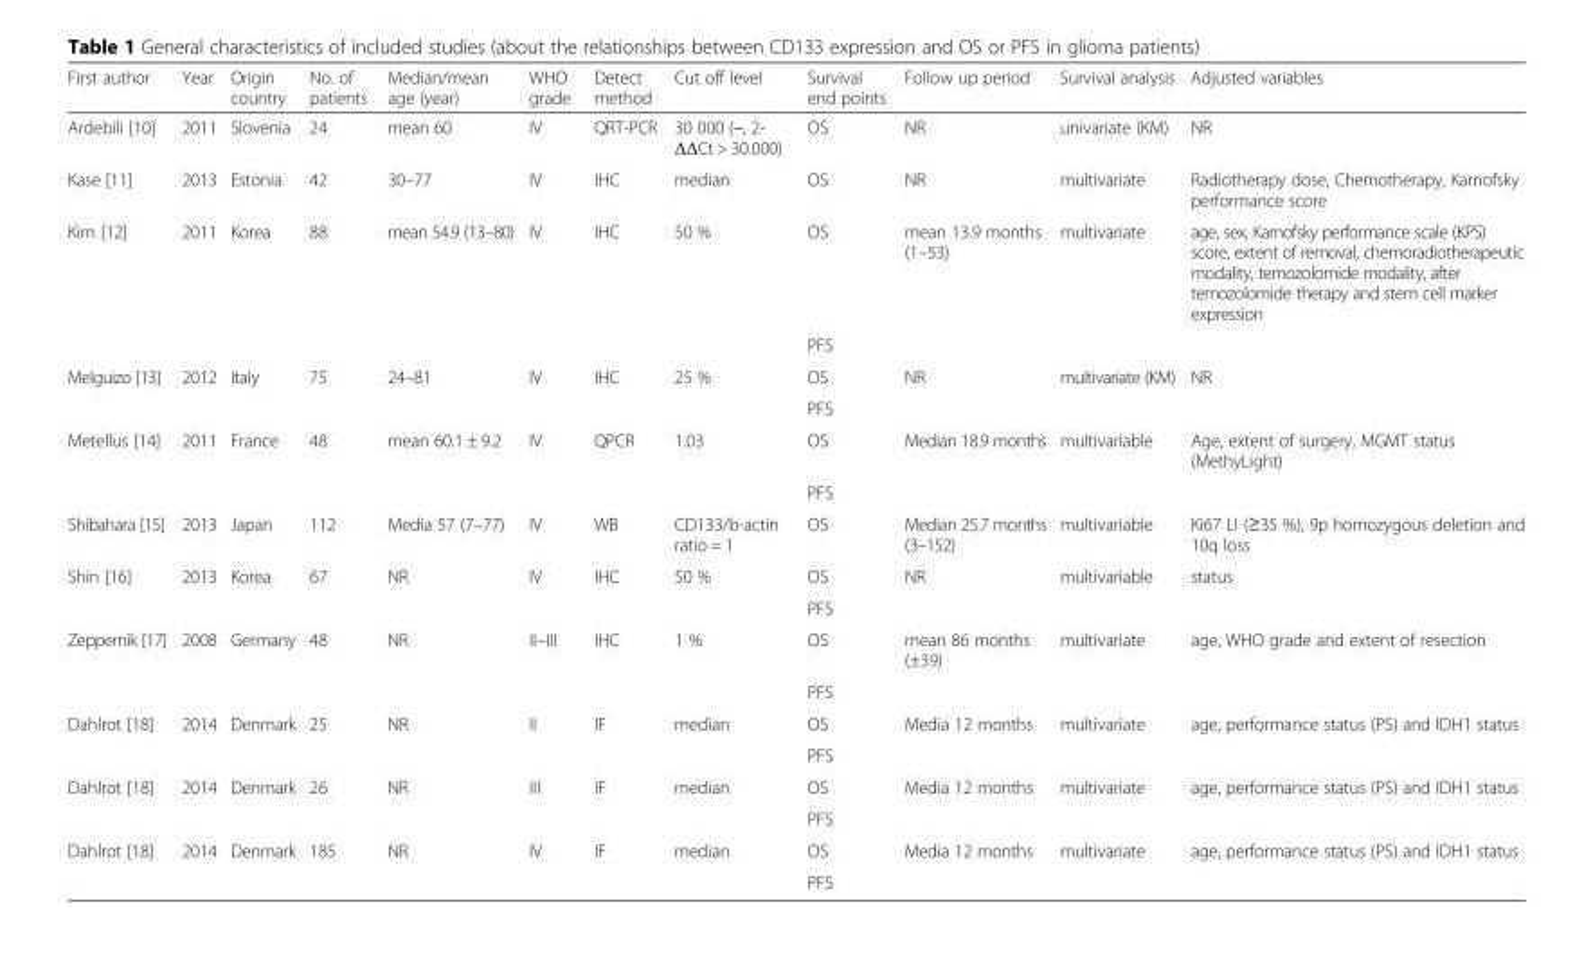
<table><thead><tr><td>First author</td><td>Year</td><td>Origin country</td><td>No. of patients</td><td>Median/mean age (year)</td><td>WHO grade</td><td>Detect method</td><td>Cut off level</td><td>Survival end points</td><td>Follow up period</td><td>Survival analysis</td><td>Adjusted variables</td></tr></thead><tbody><tr><td>Ardebili [10]</td><td>2011</td><td>Slovenia</td><td>24</td><td>mean 60</td><td>IV</td><td>QRT-PCR</td><td>30 000 (─, 2- ΔΔCt &gt; 30.000)</td><td>OS</td><td>NR</td><td>univariate (KM)</td><td>NR</td></tr><tr><td>Kase [11]</td><td>2013</td><td>Estonia</td><td>42</td><td>30–77</td><td>IV</td><td>IHC</td><td>median</td><td>OS</td><td>NR</td><td>multivariate</td><td>Radiotherapy dose, Chemotherapy, Karnofsky performance score</td></tr><tr><td rowspan="2">Kim [12]</td><td>2011</td><td>Korea</td><td>88</td><td>mean 54.9 (13–80)</td><td>IV</td><td>IHC</td><td>50 %</td><td>OS</td><td>mean 13.9 months (1–53)</td><td>multivariate</td><td>age, sex, Karnofsky performance scale (KPS) score, extent of removal, chemoradiotherapeutic modality, temozolomide modality, after temozolomide therapy and stem cell marker expression</td></tr><tr><td></td><td></td><td></td><td></td><td></td><td></td><td></td><td>PFS</td><td></td><td></td><td></td></tr><tr><td rowspan="2">Melguizo [13]</td><td>2012</td><td>Italy</td><td>75</td><td>24–81</td><td>IV</td><td>IHC</td><td>25 %</td><td>OS</td><td>NR</td><td>multivariate (KM)</td><td>NR</td></tr><tr><td></td><td></td><td></td><td></td><td></td><td></td><td></td><td>PFS</td><td></td><td></td><td></td></tr><tr><td rowspan="2">Metellus [14]</td><td>2011</td><td>France</td><td>48</td><td>mean 60.1 ± 9.2</td><td>IV</td><td>QPCR</td><td>1.03</td><td>OS</td><td>Median 18.9 months</td><td>multivariable</td><td>Age, extent of surgery, MGMT status (MethyLight)</td></tr><tr><td></td><td></td><td></td><td></td><td></td><td></td><td></td><td>PFS</td><td></td><td></td><td></td></tr><tr><td>Shibahara [15]</td><td>2013</td><td>Japan</td><td>112</td><td>Media 57 (7–77)</td><td>IV</td><td>WB</td><td>CD133/b-actin ratio = 1</td><td>OS</td><td>Median 25.7 months (3–152)</td><td>multivariable</td><td>Ki67 LI (≥35 %), 9p homozygous deletion and 10q loss</td></tr><tr><td rowspan="2">Shin [16]</td><td>2013</td><td>Korea</td><td>67</td><td>NR</td><td>IV</td><td>IHC</td><td>50 %</td><td>OS</td><td>NR</td><td>multivariable</td><td>status</td></tr><tr><td></td><td></td><td></td><td></td><td></td><td></td><td></td><td>PFS</td><td></td><td></td><td></td></tr><tr><td rowspan="2">Zeppernik [17]</td><td>2008</td><td>Germany</td><td>48</td><td>NR</td><td>II–III</td><td>IHC</td><td>1 %</td><td>OS</td><td>mean 86 months (±39)</td><td>multivariate</td><td>age, WHO grade and extent of resection</td></tr><tr><td></td><td></td><td></td><td></td><td></td><td></td><td></td><td>PFS</td><td></td><td></td><td></td></tr><tr><td rowspan="2">Dahlrot [18]</td><td>2014</td><td>Denmark</td><td>25</td><td>NR</td><td>II</td><td>IF</td><td>median</td><td>OS</td><td>Media 12 months</td><td>multivariate</td><td>age, performance status (PS) and IDH1 status</td></tr><tr><td></td><td></td><td></td><td></td><td></td><td></td><td></td><td>PFS</td><td></td><td></td><td></td></tr><tr><td rowspan="2">Dahlrot [18]</td><td>2014</td><td>Denmark</td><td>26</td><td>NR</td><td>III</td><td>IF</td><td>median</td><td>OS</td><td>Media 12 months</td><td>multivariate</td><td>age, performance status (PS) and IDH1 status</td></tr><tr><td></td><td></td><td></td><td></td><td></td><td></td><td></td><td>PFS</td><td></td><td></td><td></td></tr><tr><td rowspan="2">Dahlrot [18]</td><td>2014</td><td>Denmark</td><td>185</td><td>NR</td><td>IV</td><td>IF</td><td>median</td><td>OS</td><td>Media 12 months</td><td>multivariate</td><td>age, performance status (PS) and IDH1 status</td></tr><tr><td></td><td></td><td></td><td></td><td></td><td></td><td></td><td>PFS</td><td></td><td></td><td></td></tr></tbody></table>